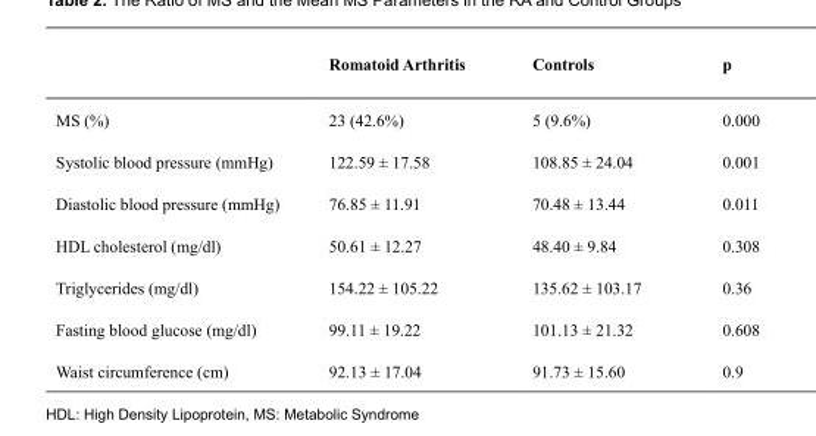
<table><thead><tr><td></td><td>Romatoid Arthritis</td><td>Controls</td><td>p</td></tr></thead><tbody><tr><td>MS (%)</td><td>23 (42.6%)</td><td>5 (9.6%)</td><td>0.000</td></tr><tr><td>Systolic blood pressure (mmHg)</td><td>122.59 ± 17.58</td><td>108.85 ± 24.04</td><td>0.001</td></tr><tr><td>Diastolic blood pressure (mmHg)</td><td>76.85 ± 11.91</td><td>70.48 ± 13.44</td><td>0.011</td></tr><tr><td>HDL cholesterol (mg/dl)</td><td>50.61 ± 12.27</td><td>48.40 ± 9.84</td><td>0.308</td></tr><tr><td>Triglycerides (mg/dl)</td><td>154.22 ± 105.22</td><td>135.62 ± 103.17</td><td>0.36</td></tr><tr><td>Fasting blood glucose (mg/dl)</td><td>99.11 ± 19.22</td><td>101.13 ± 21.32</td><td>0.608</td></tr><tr><td>Waist circumference (cm)</td><td>92.13 ± 17.04</td><td>91.73 ± 15.60</td><td>0.9</td></tr></tbody></table>